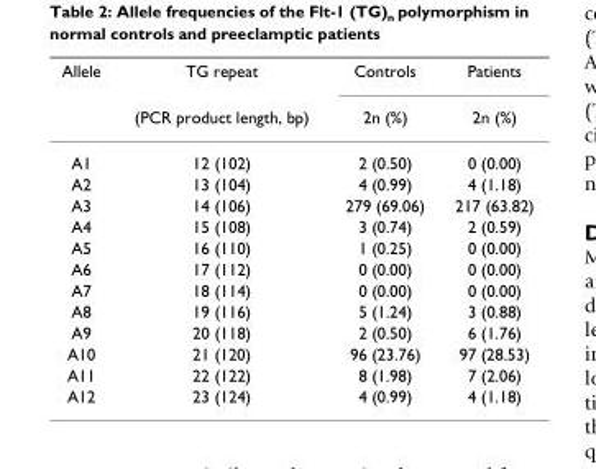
<table><thead><tr><td rowspan="2">Allele</td><td rowspan="2">TG repeat (PCR product length, bp)</td><td rowspan="2">Controls 2n (%)</td><td rowspan="2">Patients 2n (%)</td></tr><tr></tr></thead><tbody><tr><td>A1</td><td>12 (102)</td><td>2 (0.50)</td><td>0 (0.00)</td></tr><tr><td>A2</td><td>13 (104)</td><td>4 (0.99)</td><td>4 (1.18)</td></tr><tr><td>A3</td><td>14 (106)</td><td>279 (69.06)</td><td>217 (63.82)</td></tr><tr><td>A4</td><td>15 (108)</td><td>3 (0.74)</td><td>2 (0.59)</td></tr><tr><td>A5</td><td>16 (110)</td><td>1 (0.25)</td><td>0 (0.00)</td></tr><tr><td>A6</td><td>17 (112)</td><td>0 (0.00)</td><td>0 (0.00)</td></tr><tr><td>A7</td><td>18 (114)</td><td>0 (0.00)</td><td>0 (0.00)</td></tr><tr><td>A8</td><td>19 (116)</td><td>5 (1.24)</td><td>3 (0.88)</td></tr><tr><td>A9</td><td>20 (118)</td><td>2 (0.50)</td><td>6 (1.76)</td></tr><tr><td>A10</td><td>21 (120)</td><td>96 (23.76)</td><td>97 (28.53)</td></tr><tr><td>A11</td><td>22 (122)</td><td>8 (1.98)</td><td>7 (2.06)</td></tr><tr><td>A12</td><td>23 (124)</td><td>4 (0.99)</td><td>4 (1.18)</td></tr></tbody></table>